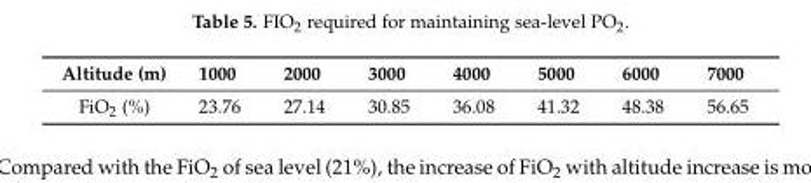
<table><thead><tr><td>Altitude (m)</td><td>1000</td><td>2000</td><td>3000</td><td>4000</td><td>5000</td><td>6000</td><td>7000</td></tr></thead><tbody><tr><td>FiO<sub>2</sub> (%)</td><td>23.76</td><td>27.14</td><td>30.85</td><td>36.08</td><td>41.32</td><td>48.38</td><td>56.65</td></tr></tbody></table>